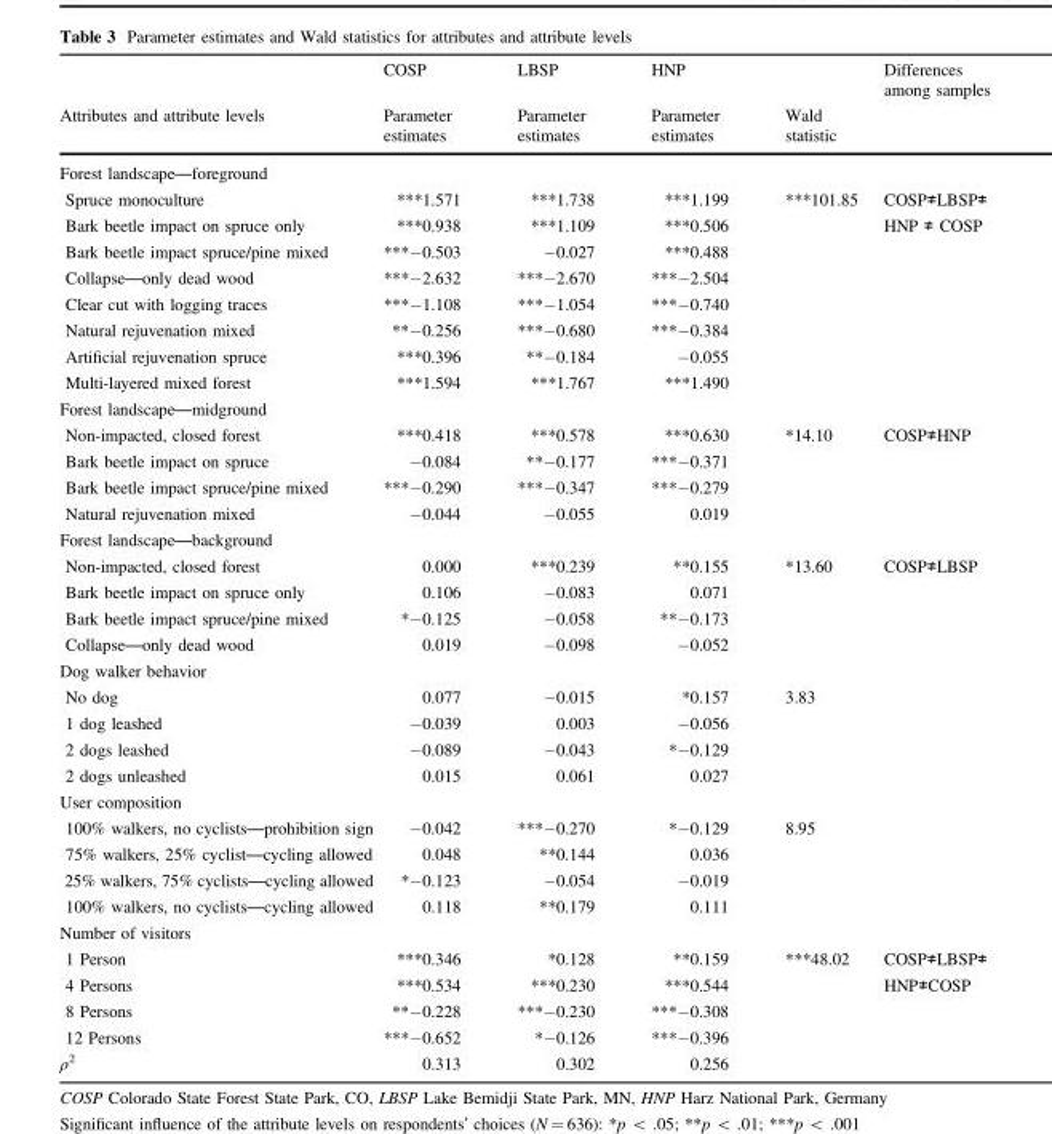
<table><thead><tr><td rowspan="2">Attributes and attribute levels</td><td rowspan="2">COSP Parameter estimates</td><td rowspan="2">LBSP Parameter estimates</td><td rowspan="2">HNP Parameter estimates</td><td rowspan="2">Wald statistic</td><td rowspan="2">Differences among samples</td></tr><tr></tr></thead><tbody><tr><td colspan="6">Forest landscape—foreground</td></tr><tr><td>Spruce monoculture</td><td>***1.571</td><td>***1.738</td><td>***1.199</td><td>***101.85</td><td>COSP≠LBSP≠</td></tr><tr><td>Bark beetle impact on spruce only</td><td>***0.938</td><td>***1.109</td><td>***0.506</td><td></td><td>HNP ≠ COSP</td></tr><tr><td>Bark beetle impact spruce/pine mixed</td><td>***−0.503</td><td>−0.027</td><td>***0.488</td><td></td><td></td></tr><tr><td>Collapse—only dead wood</td><td>***−2.632</td><td>***−2.670</td><td>***−2.504</td><td></td><td></td></tr><tr><td>Clear cut with logging traces</td><td>***−1.108</td><td>***−1.054</td><td>***−0.740</td><td></td><td></td></tr><tr><td>Natural rejuvenation mixed</td><td>**−0.256</td><td>***−0.680</td><td>***−0.384</td><td></td><td></td></tr><tr><td>Artificial rejuvenation spruce</td><td>***0.396</td><td>**−0.184</td><td>−0.055</td><td></td><td></td></tr><tr><td>Multi-layered mixed forest</td><td>***1.594</td><td>***1.767</td><td>***1.490</td><td></td><td></td></tr><tr><td colspan="6">Forest landscape—midground</td></tr><tr><td>Non-impacted, closed forest</td><td>***0.418</td><td>***0.578</td><td>***0.630</td><td>*14.10</td><td>COSP≠HNP</td></tr><tr><td>Bark beetle impact on spruce</td><td>−0.084</td><td>**−0.177</td><td>***−0.371</td><td></td><td></td></tr><tr><td>Bark beetle impact spruce/pine mixed</td><td>***−0.290</td><td>***−0.347</td><td>***−0.279</td><td></td><td></td></tr><tr><td>Natural rejuvenation mixed</td><td>−0.044</td><td>−0.055</td><td>0.019</td><td></td><td></td></tr><tr><td colspan="6">Forest landscape—background</td></tr><tr><td>Non-impacted, closed forest</td><td>0.000</td><td>***0.239</td><td>**0.155</td><td>*13.60</td><td>COSP≠LBSP</td></tr><tr><td>Bark beetle impact on spruce only</td><td>0.106</td><td>−0.083</td><td>0.071</td><td></td><td></td></tr><tr><td>Bark beetle impact spruce/pine mixed</td><td>*−0.125</td><td>−0.058</td><td>**−0.173</td><td></td><td></td></tr><tr><td>Collapse—only dead wood</td><td>0.019</td><td>−0.098</td><td>−0.052</td><td></td><td></td></tr><tr><td colspan="6">Dog walker behavior</td></tr><tr><td>No dog</td><td>0.077</td><td>−0.015</td><td>*0.157</td><td>3.83</td><td></td></tr><tr><td>1 dog leashed</td><td>−0.039</td><td>0.003</td><td>−0.056</td><td></td><td></td></tr><tr><td>2 dogs leashed</td><td>−0.089</td><td>−0.043</td><td>*−0.129</td><td></td><td></td></tr><tr><td>2 dogs unleashed</td><td>0.015</td><td>0.061</td><td>0.027</td><td></td><td></td></tr><tr><td colspan="6">User composition</td></tr><tr><td>100% walkers, no cyclists—prohibition sign</td><td>−0.042</td><td>***−0.270</td><td>*−0.129</td><td>8.95</td><td></td></tr><tr><td>75% walkers, 25% cyclist—cycling allowed</td><td>0.048</td><td>**0.144</td><td>0.036</td><td></td><td></td></tr><tr><td>25% walkers, 75% cyclists—cycling allowed</td><td>*−0.123</td><td>−0.054</td><td>−0.019</td><td></td><td></td></tr><tr><td>100% walkers, no cyclists—cycling allowed</td><td>0.118</td><td>**0.179</td><td>0.111</td><td></td><td></td></tr><tr><td colspan="6">Number of visitors</td></tr><tr><td>1 Person</td><td>***0.346</td><td>*0.128</td><td>**0.159</td><td>***48.02</td><td>COSP≠LBSP≠</td></tr><tr><td>4 Persons</td><td>***0.534</td><td>***0.230</td><td>***0.544</td><td></td><td>HNP≠COSP</td></tr><tr><td>8 Persons</td><td>**−0.228</td><td>***−0.230</td><td>***−0.308</td><td></td><td></td></tr><tr><td>12 Persons</td><td>***−0.652</td><td>*−0.126</td><td>***−0.396</td><td></td><td></td></tr><tr><td>ρ<sup>2</sup></td><td>0.313</td><td>0.302</td><td>0.256</td><td></td><td></td></tr></tbody></table>